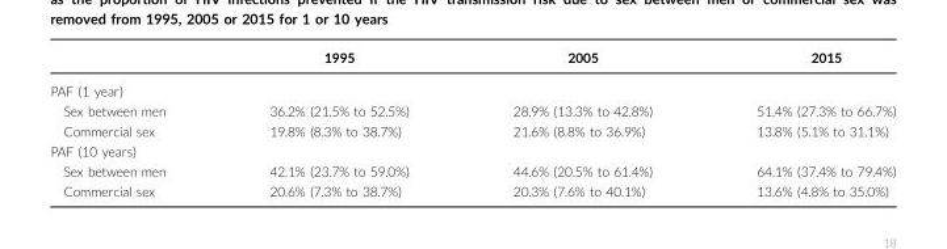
<table><thead><tr><td></td><td>1995</td><td>2005</td><td>2015</td></tr></thead><tbody><tr><td colspan="4">PAF (1 year)</td></tr><tr><td>Sex between men</td><td>36.2% (21.5% to 52.5%)</td><td>28.9% (13.3% to 42.8%)</td><td>51.4% (27.3% to 66.7%)</td></tr><tr><td>Commercial sex</td><td>19.8% (8.3% to 38.7%)</td><td>21.6% (8.8% to 36.9%)</td><td>13.8% (5.1% to 31.1%)</td></tr><tr><td colspan="4">PAF (10 years)</td></tr><tr><td>Sex between men</td><td>42.1% (23.7% to 59.0%)</td><td>44.6% (20.5% to 61.4%)</td><td>64.1% (37.4% to 79.4%)</td></tr><tr><td>Commercial sex</td><td>20.6% (7.3% to 38.7%)</td><td>20.3% (7.6% to 40.1%)</td><td>13.6% (4.8% to 35.0%)</td></tr></tbody></table>